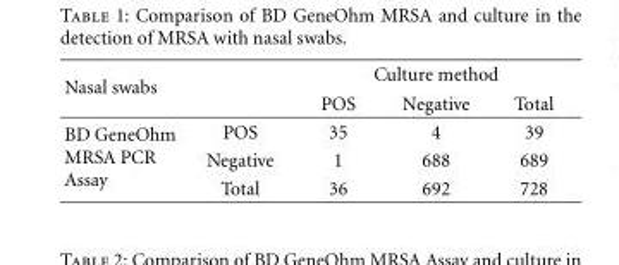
<table><thead><tr><td rowspan="2">Nasal swabs</td><td rowspan="2"></td><td colspan="3">Culture method</td></tr><tr><td>POS</td><td>Negative</td><td>Total</td></tr></thead><tbody><tr><td rowspan="3">BD GeneOhm MRSA PCR Assay</td><td>POS</td><td>35</td><td>4</td><td>39</td></tr><tr><td>Negative</td><td>1</td><td>688</td><td>689</td></tr><tr><td>Total</td><td>36</td><td>692</td><td>728</td></tr></tbody></table>